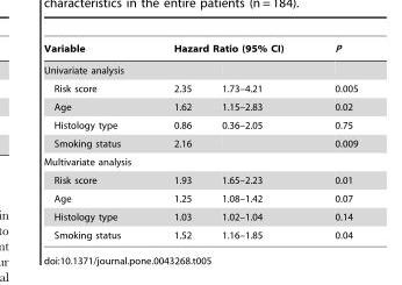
<table><thead><tr><td rowspan="2">Variable Univariate analysis</td><td colspan="2">Hazard Ratio (95% CI)</td><td rowspan="2">P</td></tr><tr><td></td><td></td></tr></thead><tbody><tr><td>Risk score</td><td>2.35</td><td>1.73–4.21</td><td>0.005</td></tr><tr><td>Age</td><td>1.62</td><td>1.15–2.83</td><td>0.02</td></tr><tr><td>Histology type</td><td>0.86</td><td>0.36–2.05</td><td>0.75</td></tr><tr><td>Smoking status</td><td>2.16</td><td></td><td>0.009</td></tr><tr><td colspan="4">Multivariate analysis</td></tr><tr><td>Risk score</td><td>1.93</td><td>1.65–2.23</td><td>0.01</td></tr><tr><td>Age</td><td>1.25</td><td>1.08–1.42</td><td>0.07</td></tr><tr><td>Histology type</td><td>1.03</td><td>1.02–1.04</td><td>0.14</td></tr><tr><td>Smoking status</td><td>1.52</td><td>1.16–1.85</td><td>0.04</td></tr></tbody></table>